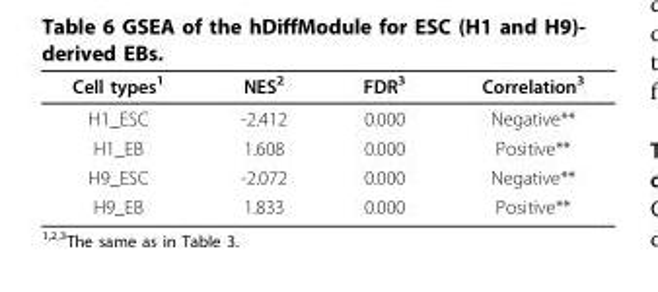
<table><thead><tr><td>Cell types<sup>1</sup></td><td>NES<sup>2</sup></td><td>FDR<sup>3</sup></td><td>Correlation<sup>3</sup></td></tr></thead><tbody><tr><td>H1_ESC</td><td>-2.412</td><td>0.000</td><td>Negative**</td></tr><tr><td>H1_EB</td><td>1.608</td><td>0.000</td><td>Positive**</td></tr><tr><td>H9_ESC</td><td>-2.072</td><td>0.000</td><td>Negative**</td></tr><tr><td>H9_EB</td><td>1.833</td><td>0.000</td><td>Positive**</td></tr></tbody></table>